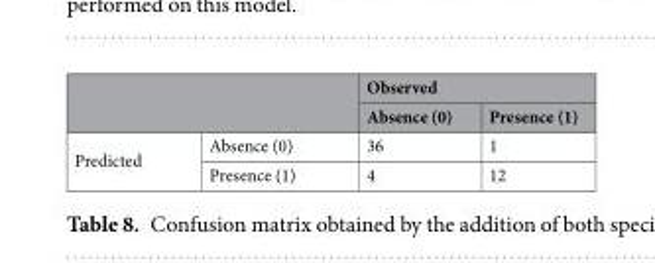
<table><thead><tr><td rowspan="2"></td><td rowspan="2"></td><td colspan="2">Observed</td></tr><tr><td>Absence (0)</td><td>Presence (1)</td></tr></thead><tbody><tr><td rowspan="2">Predicted</td><td>Absence (0)</td><td>36</td><td>1</td></tr><tr><td>Presence (1)</td><td>4</td><td>12</td></tr></tbody></table>